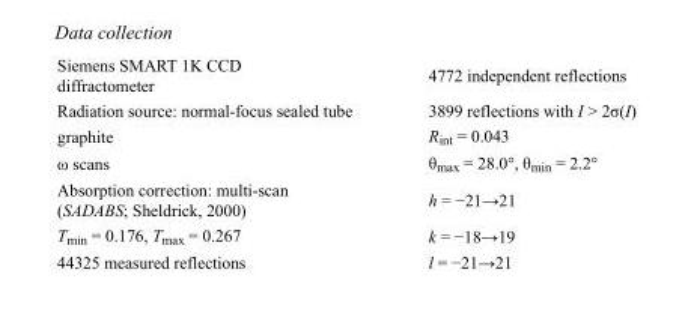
<table><tbody><tr><td>Siemens SMART 1K CCD diffractometer</td><td>4772 independent reflections</td></tr><tr><td>Radiation source: normal-focus sealed tube</td><td>3899 reflections with I &gt; 2σ(I)</td></tr><tr><td>graphite</td><td>R<sub>int</sub> = 0.043</td></tr><tr><td>ω scans</td><td>θ<sub>max</sub> = 28.0°, θ<sub>min</sub> = 2.2°</td></tr><tr><td>Absorption correction: multi-scan (SADABS; Sheldrick, 2000)</td><td>h = −21→21</td></tr><tr><td>T<sub>min</sub> = 0.176, T<sub>max</sub> = 0.267</td><td>k = −18→19</td></tr><tr><td>44325 measured reflections</td><td>l = −21→21</td></tr></tbody></table>